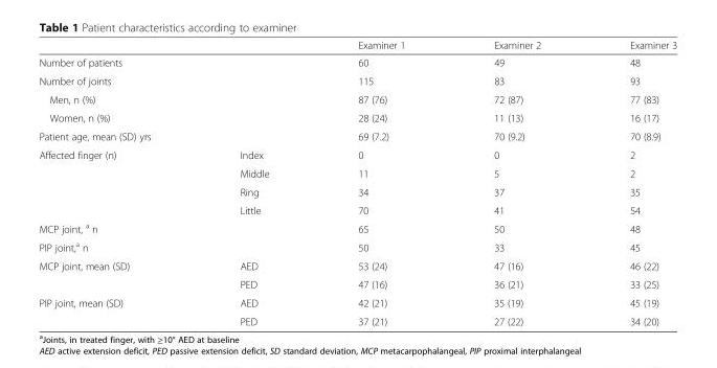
<table><thead><tr><td></td><td></td><td>Examiner 1</td><td>Examiner 2</td><td>Examiner 3</td></tr></thead><tbody><tr><td>Number of patients</td><td></td><td>60</td><td>49</td><td>48</td></tr><tr><td>Number of joints</td><td></td><td>115</td><td>83</td><td>93</td></tr><tr><td>Men, n (%)</td><td></td><td>87 (76)</td><td>72 (87)</td><td>77 (83)</td></tr><tr><td>Women, n (%)</td><td></td><td>28 (24)</td><td>11 (13)</td><td>16 (17)</td></tr><tr><td>Patient age, mean (SD) yrs</td><td></td><td>69 (7.2)</td><td>70 (9.2)</td><td>70 (8.9)</td></tr><tr><td rowspan="4">Affected finger (n)</td><td>Index</td><td>0</td><td>0</td><td>2</td></tr><tr><td>Middle</td><td>11</td><td>5</td><td>2</td></tr><tr><td>Ring</td><td>34</td><td>37</td><td>35</td></tr><tr><td>Little</td><td>70</td><td>41</td><td>54</td></tr><tr><td>MCP joint, <sup>a</sup> n</td><td></td><td>65</td><td>50</td><td>48</td></tr><tr><td>PIP joint,<sup>a</sup> n</td><td></td><td>50</td><td>33</td><td>45</td></tr><tr><td rowspan="2">MCP joint, mean (SD)</td><td>AED</td><td>53 (24)</td><td>47 (16)</td><td>46 (22)</td></tr><tr><td>PED</td><td>47 (16)</td><td>36 (21)</td><td>33 (25)</td></tr><tr><td rowspan="2">PIP joint, mean (SD)</td><td>AED</td><td>42 (21)</td><td>35 (19)</td><td>45 (19)</td></tr><tr><td>PED</td><td>37 (21)</td><td>27 (22)</td><td>34 (20)</td></tr></tbody></table>